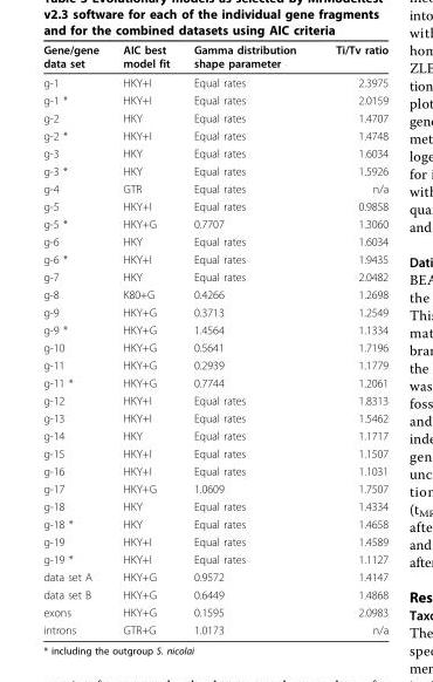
<table><thead><tr><td>Gene/gene data set</td><td>AIC best model fit</td><td>Gamma distribution shape parameter</td><td>Ti/Tv ratio</td></tr></thead><tbody><tr><td>g-1</td><td>HKY+I</td><td>Equal rates</td><td>2.3975</td></tr><tr><td>g-1 *</td><td>HKY+I</td><td>Equal rates</td><td>2.0159</td></tr><tr><td>g-2</td><td>HKY</td><td>Equal rates</td><td>1.4707</td></tr><tr><td>g-2 *</td><td>HKY+I</td><td>Equal rates</td><td>1.4748</td></tr><tr><td>g-3</td><td>HKY</td><td>Equal rates</td><td>1.6034</td></tr><tr><td>g-3 *</td><td>HKY</td><td>Equal rates</td><td>1.5926</td></tr><tr><td>g-4</td><td>GTR</td><td>Equal rates</td><td>n/a</td></tr><tr><td>g-5</td><td>HKY+I</td><td>Equal rates</td><td>0.9858</td></tr><tr><td>g-5 *</td><td>HKY+G</td><td>0.7707</td><td>1.3060</td></tr><tr><td>g-6</td><td>HKY</td><td>Equal rates</td><td>1.6034</td></tr><tr><td>g-6 *</td><td>HKY+I</td><td>Equal rates</td><td>1.9435</td></tr><tr><td>g-7</td><td>HKY</td><td>Equal rates</td><td>2.0482</td></tr><tr><td>g-8</td><td>K80+G</td><td>0.4266</td><td>1.2698</td></tr><tr><td>g-9</td><td>HKY+G</td><td>0.3713</td><td>1.2549</td></tr><tr><td>g-9 *</td><td>HKY+G</td><td>1.4564</td><td>1.1334</td></tr><tr><td>g-10</td><td>HKY+G</td><td>0.5641</td><td>1.7196</td></tr><tr><td>g-11</td><td>HKY+G</td><td>0.2939</td><td>1.1779</td></tr><tr><td>g-11 *</td><td>HKY+G</td><td>0.7744</td><td>1.2061</td></tr><tr><td>g-12</td><td>HKY+I</td><td>Equal rates</td><td>1.8313</td></tr><tr><td>g-13</td><td>HKY+I</td><td>Equal rates</td><td>1.5462</td></tr><tr><td>g-14</td><td>HKY</td><td>Equal rates</td><td>1.1717</td></tr><tr><td>g-15</td><td>HKY+I</td><td>Equal rates</td><td>1.1507</td></tr><tr><td>g-16</td><td>HKY+I</td><td>Equal rates</td><td>1.1031</td></tr><tr><td>g-17</td><td>HKY+G</td><td>1.0609</td><td>1.7507</td></tr><tr><td>g-18</td><td>HKY</td><td>Equal rates</td><td>1.4334</td></tr><tr><td>g-18 *</td><td>HKY</td><td>Equal rates</td><td>1.4658</td></tr><tr><td>g-19</td><td>HKY+I</td><td>Equal rates</td><td>1.4589</td></tr><tr><td>g-19 *</td><td>HKY+I</td><td>Equal rates</td><td>1.1127</td></tr><tr><td>data set A</td><td>HKY+G</td><td>0.9572</td><td>1.4147</td></tr><tr><td>data set B</td><td>HKY+G</td><td>0.6449</td><td>1.4868</td></tr><tr><td>exons</td><td>HKY+G</td><td>0.1595</td><td>2.0983</td></tr><tr><td>introns</td><td>GTR+G</td><td>1.0173</td><td>n/a</td></tr></tbody></table>